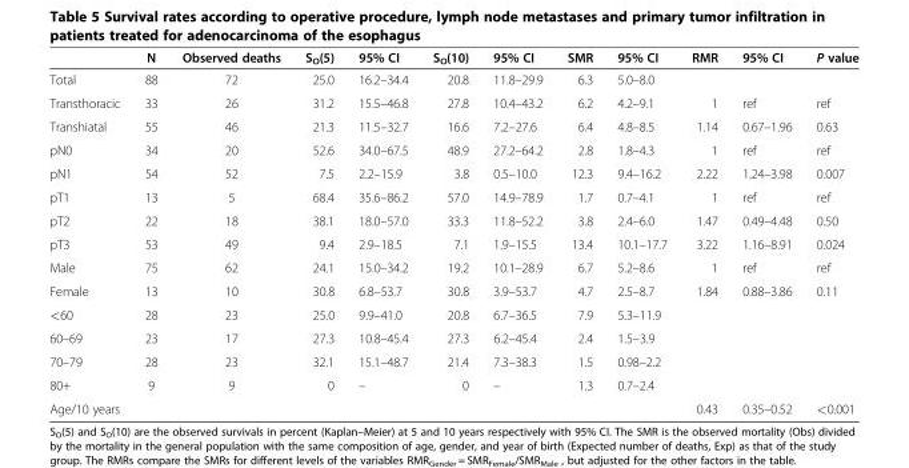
<table><thead><tr><td></td><td>N</td><td>Observed deaths</td><td>S<sub>O</sub>(5)</td><td>95% CI</td><td>S<sub>O</sub>(10)</td><td>95% CI</td><td>SMR</td><td>95% CI</td><td>RMR</td><td>95% CI</td><td>P value</td></tr></thead><tbody><tr><td>Total</td><td>88</td><td>72</td><td>25.0</td><td>16.2–34.4</td><td>20.8</td><td>11.8–29.9</td><td>6.3</td><td>5.0–8.0</td><td></td><td></td><td></td></tr><tr><td>Transthoracic</td><td>33</td><td>26</td><td>31.2</td><td>15.5–46.8</td><td>27.8</td><td>10.4–43.2</td><td>6.2</td><td>4.2–9.1</td><td>1</td><td>ref</td><td>ref</td></tr><tr><td>Transhiatal</td><td>55</td><td>46</td><td>21.3</td><td>11.5–32.7</td><td>16.6</td><td>7.2–27.6</td><td>6.4</td><td>4.8–8.5</td><td>1.14</td><td>0.67–1.96</td><td>0.63</td></tr><tr><td>pN0</td><td>34</td><td>20</td><td>52.6</td><td>34.0–67.5</td><td>48.9</td><td>27.2–64.2</td><td>2.8</td><td>1.8–4.3</td><td>1</td><td>ref</td><td>ref</td></tr><tr><td>pN1</td><td>54</td><td>52</td><td>7.5</td><td>2.2–15.9</td><td>3.8</td><td>0.5–10.0</td><td>12.3</td><td>9.4–16.2</td><td>2.22</td><td>1.24–3.98</td><td>0.007</td></tr><tr><td>pT1</td><td>13</td><td>5</td><td>68.4</td><td>35.6–86.2</td><td>57.0</td><td>14.9–78.9</td><td>1.7</td><td>0.7–4.1</td><td>1</td><td>ref</td><td>ref</td></tr><tr><td>pT2</td><td>22</td><td>18</td><td>38.1</td><td>18.0–57.0</td><td>33.3</td><td>11.8–52.2</td><td>3.8</td><td>2.4–6.0</td><td>1.47</td><td>0.49–4.48</td><td>0.50</td></tr><tr><td>pT3</td><td>53</td><td>49</td><td>9.4</td><td>2.9–18.5</td><td>7.1</td><td>1.9–15.5</td><td>13.4</td><td>10.1–17.7</td><td>3.22</td><td>1.16–8.91</td><td>0.024</td></tr><tr><td>Male</td><td>75</td><td>62</td><td>24.1</td><td>15.0–34.2</td><td>19.2</td><td>10.1–28.9</td><td>6.7</td><td>5.2–8.6</td><td>1</td><td>ref</td><td>ref</td></tr><tr><td>Female</td><td>13</td><td>10</td><td>30.8</td><td>6.8–53.7</td><td>30.8</td><td>3.9–53.7</td><td>4.7</td><td>2.5–8.7</td><td>1.84</td><td>0.88–3.86</td><td>0.11</td></tr><tr><td>&lt;60</td><td>28</td><td>23</td><td>25.0</td><td>9.9–41.0</td><td>20.8</td><td>6.7–36.5</td><td>7.9</td><td>5.3–11.9</td><td></td><td></td><td></td></tr><tr><td>60–69</td><td>23</td><td>17</td><td>27.3</td><td>10.8–45.4</td><td>27.3</td><td>6.2–45.4</td><td>2.4</td><td>1.5–3.9</td><td></td><td></td><td></td></tr><tr><td>70–79</td><td>28</td><td>23</td><td>32.1</td><td>15.1–48.7</td><td>21.4</td><td>7.3–38.3</td><td>1.5</td><td>0.98–2.2</td><td></td><td></td><td></td></tr><tr><td>80+</td><td>9</td><td>9</td><td>0</td><td>–</td><td>0</td><td>–</td><td>1.3</td><td>0.7–2.4</td><td></td><td></td><td></td></tr><tr><td>Age/10 years</td><td></td><td></td><td></td><td></td><td></td><td></td><td></td><td></td><td>0.43</td><td>0.35–0.52</td><td>&lt;0.001</td></tr></tbody></table>